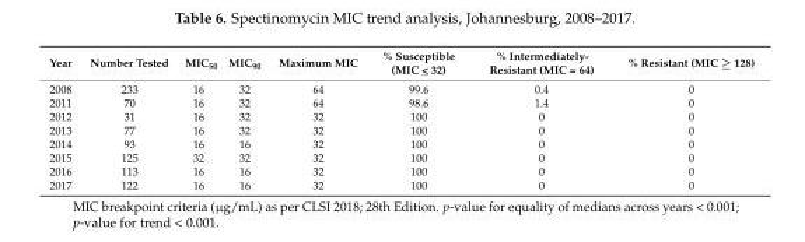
<table><thead><tr><td>Year</td><td>Number Tested</td><td>MIC<sub>50</sub></td><td>MIC<sub>90</sub></td><td>Maximum MIC</td><td>% Susceptible (MIC &lt; 32)</td><td>% Intermediately- Resistant (MIC = 64)</td><td>% Resistant (MIC ≥ 128)</td></tr></thead><tbody><tr><td>2008</td><td>233</td><td>16</td><td>32</td><td>64</td><td>99.6</td><td>0.4</td><td>0</td></tr><tr><td>2011</td><td>70</td><td>16</td><td>32</td><td>64</td><td>98.6</td><td>1.4</td><td>0</td></tr><tr><td>2012</td><td>31</td><td>16</td><td>32</td><td>32</td><td>100</td><td>0</td><td>0</td></tr><tr><td>2013</td><td>77</td><td>16</td><td>32</td><td>32</td><td>100</td><td>0</td><td>0</td></tr><tr><td>2014</td><td>93</td><td>16</td><td>16</td><td>32</td><td>100</td><td>0</td><td>0</td></tr><tr><td>2015</td><td>125</td><td>32</td><td>32</td><td>32</td><td>100</td><td>0</td><td>0</td></tr><tr><td>2016</td><td>113</td><td>16</td><td>16</td><td>32</td><td>100</td><td>0</td><td>0</td></tr><tr><td>2017</td><td>122</td><td>16</td><td>16</td><td>32</td><td>100</td><td>0</td><td>0</td></tr></tbody></table>